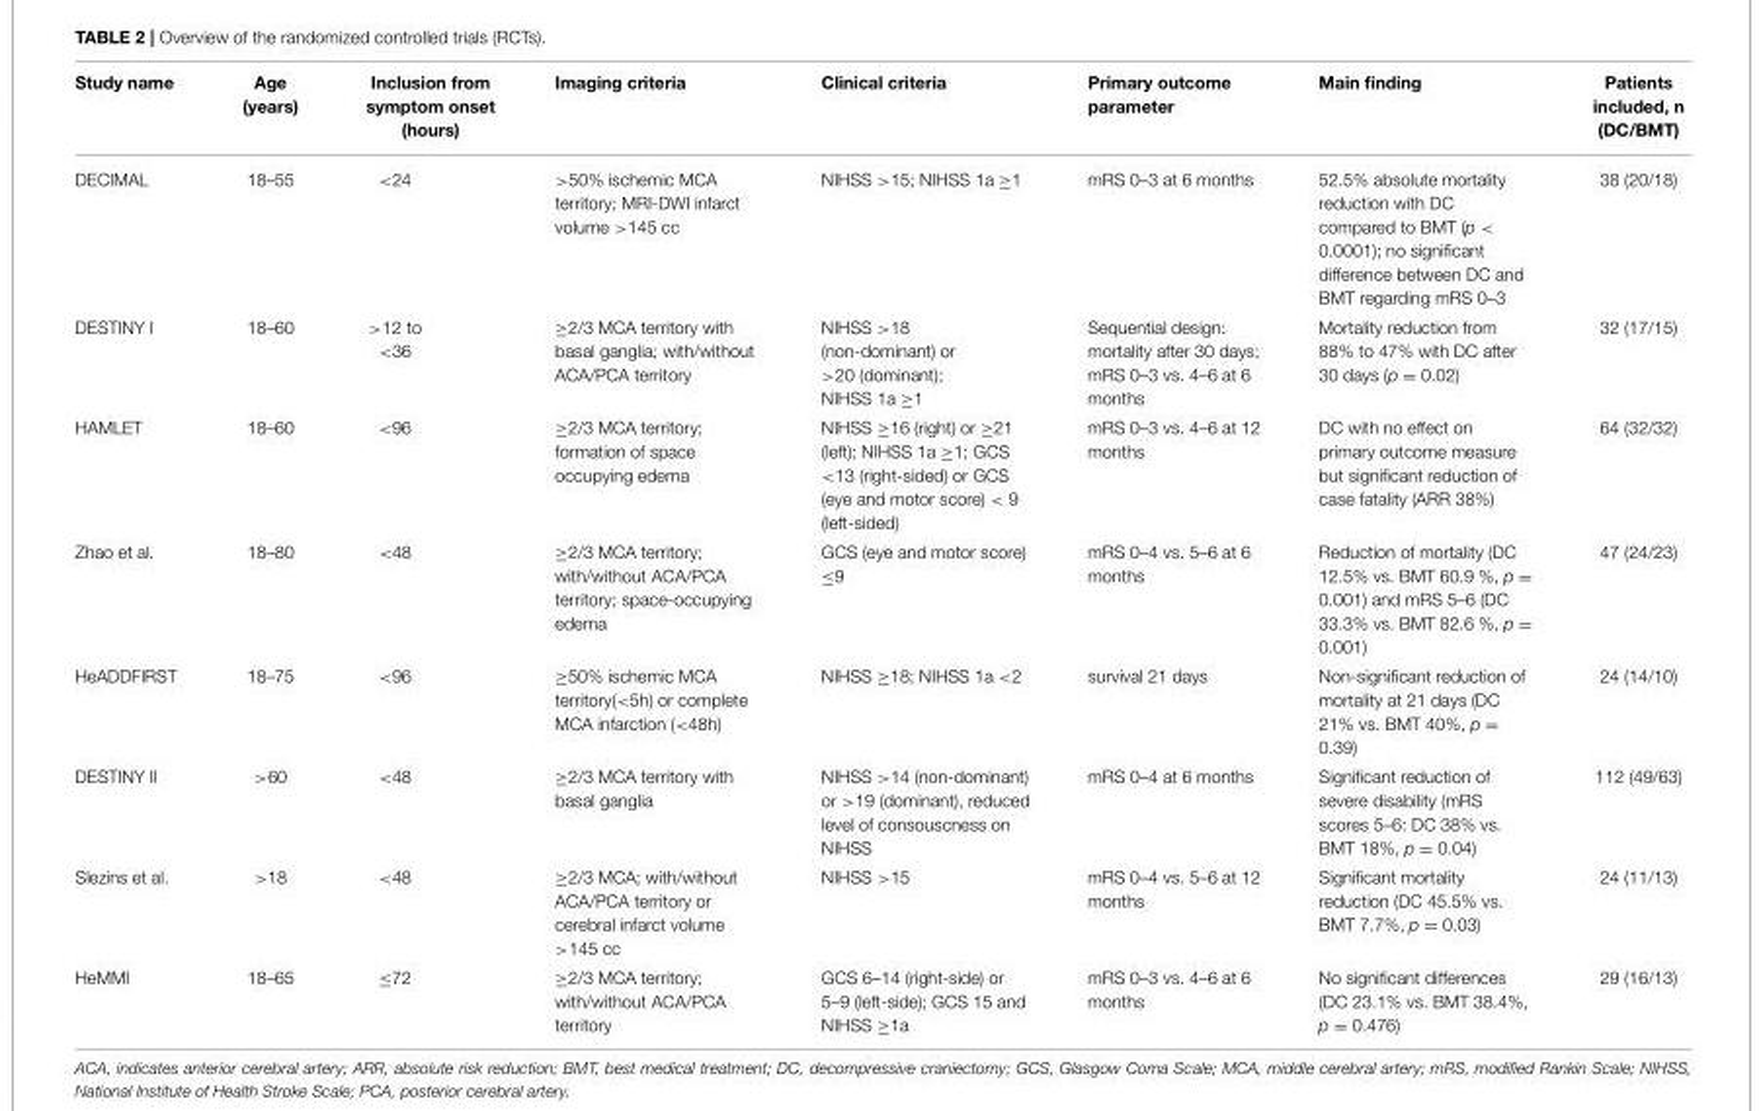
<table><thead><tr><td>Study name</td><td>Age (years)</td><td>Inclusion from symptom onset (hours)</td><td>Imaging criteria</td><td>Clinical criteria</td><td>Primary outcome parameter</td><td>Main finding</td><td>Patients included, n (DC/BMT)</td></tr></thead><tbody><tr><td>DECIMAL</td><td>18–55</td><td>&lt;24</td><td>&gt;50% ischemic MCA territory; MRI-DWI infarct volume &gt;145 cc</td><td>NIHSS &gt;15; NIHSS 1a ≥1</td><td>mRS 0–3 at 6 months</td><td>52.5% absolute mortality reduction with DC compared to BMT (p &lt; 0.0001); no significant difference between DC and BMT regarding mRS 0–3</td><td>38 (20/18)</td></tr><tr><td>DESTINY I</td><td>18–60</td><td>&gt;12 to &lt;36</td><td>≥2/3 MCA territory with basal ganglia; with/without ACA/PCA territory</td><td>NIHSS &gt;18 (non-dominant) or &gt;20 (dominant); NIHSS 1a ≥1</td><td>Sequential design: mortality after 30 days; mRS 0–3 vs. 4–6 at 6 months</td><td>Mortality reduction from 88% to 47% with DC after 30 days (p = 0.02)</td><td>32 (17/15)</td></tr><tr><td>HAMLET</td><td>18–60</td><td>&lt;96</td><td>≥2/3 MCA territory; formation of space occupying edema</td><td>NIHSS ≥16 (right) or ≥21 (left); NIHSS 1a ≥1; GCS &lt;13 (right-sided) or GCS (eye and motor score) &lt; 9 (left-sided)</td><td>mRS 0–3 vs. 4–6 at 12 months</td><td>DC with no effect on primary outcome measure but significant reduction of case fatality (ARR 38%)</td><td>64 (32/32)</td></tr><tr><td>Zhao et al.</td><td>18–80</td><td>&lt;48</td><td>≥2/3 MCA territory; with/without ACA/PCA territory; space-occupying edema</td><td>GCS (eye and motor score) ≤9</td><td>mRS 0–4 vs. 5–6 at 6 months</td><td>Reduction of mortality (DC 12.5% vs. BMT 60.9 %, p = 0.001) and mRS 5–6 (DC 33.3% vs. BMT 82.6 %, p = 0.001)</td><td>47 (24/23)</td></tr><tr><td>HeADDFIRST</td><td>18–75</td><td>&lt;96</td><td>≥50% ischemic MCA territory(&lt;5h) or complete MCA infarction (&lt;48h)</td><td>NIHSS ≥18; NIHSS 1a &lt;2</td><td>survival 21 days</td><td>Non-significant reduction of mortality at 21 days (DC 21% vs. BMT 40%, p = 0.39)</td><td>24 (14/10)</td></tr><tr><td>DESTINY II</td><td>&gt;60</td><td>&lt;48</td><td>≥2/3 MCA territory with basal ganglia</td><td>NIHSS &gt;14 (non-dominant) or &gt;19 (dominant), reduced level of consouscness on NIHSS</td><td>mRS 0–4 at 6 months</td><td>Significant reduction of severe disability (mRS scores 5–6: DC 38% vs. BMT 18%, p = 0.04)</td><td>112 (49/63)</td></tr><tr><td>Slezins et al.</td><td>&gt;18</td><td>&lt;48</td><td>≥2/3 MCA; with/without ACA/PCA territory or cerebral infarct volume &gt;145 cc</td><td>NIHSS &gt;15</td><td>mRS 0–4 vs. 5–6 at 12 months</td><td>Significant mortality reduction (DC 45.5% vs. BMT 7.7%, p = 0.03)</td><td>24 (11/13)</td></tr><tr><td>HeMMI</td><td>18–65</td><td>≤72</td><td>≥2/3 MCA territory; with/without ACA/PCA territory</td><td>GCS 6–14 (right-side) or 5–9 (left-side); GCS 15 and NIHSS ≥1a</td><td>mRS 0–3 vs. 4–6 at 6 months</td><td>No significant differences (DC 23.1% vs. BMT 38.4%, p = 0.476)</td><td>29 (16/13)</td></tr></tbody></table>